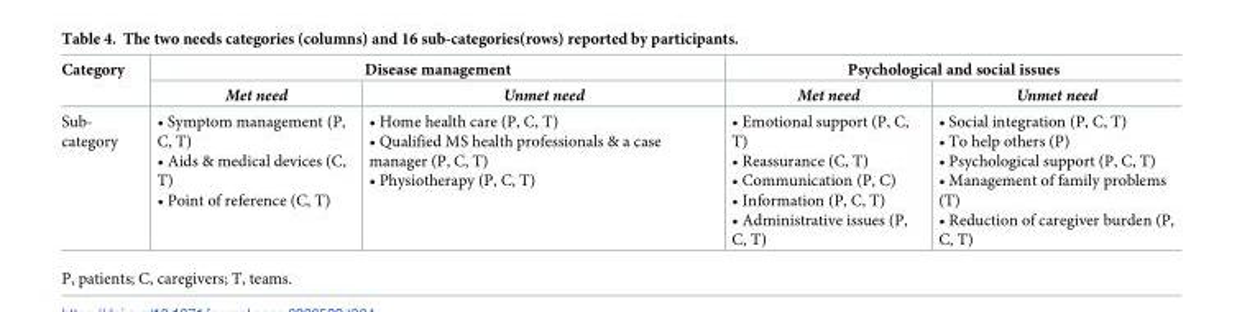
<table><thead><tr><td rowspan="2">Category</td><td colspan="2">Disease management</td><td colspan="2">Psychological and social issues</td></tr><tr><td>Met need</td><td>Unmet need</td><td>Met need</td><td>Unmet need</td></tr></thead><tbody><tr><td>Sub- category</td><td>• Symptom management (P, C, T) • Aids &amp; medical devices (C, T) • Point of reference (C, T)</td><td>• Home health care (P, C, T) • Qualified MS health professionals &amp; a case manager (P, C, T) • Physiotherapy (P, C, T)</td><td>• Emotional support (P, C, T) • Reassurance (C, T) • Communication (P, C) • Information (P, C, T) • Administrative issues (P, C, T)</td><td>• Social integration (P, C, T) • To help others (P) • Psychological support (P, C, T) • Management of family problems (T) • Reduction of caregiver burden (P, C, T)</td></tr></tbody></table>